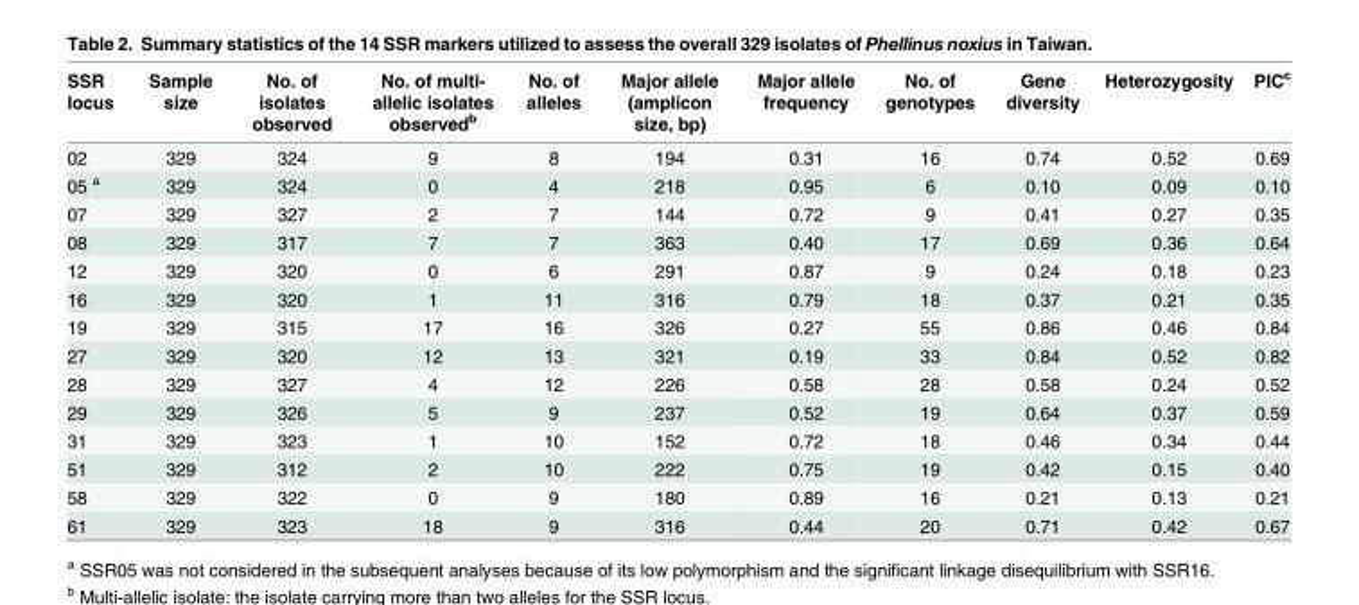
<table><thead><tr><td>SSR locus</td><td>Sample size</td><td>No. of isolates observed</td><td>No. of multi- allelic isolates observed<sup>b</sup></td><td>No. of alleles</td><td>Major allele (amplicon size, bp)</td><td>Major allele frequency</td><td>No. of genotypes</td><td>Gene diversity</td><td>Heterozygosity</td><td>PIC<sup>c</sup></td></tr></thead><tbody><tr><td>02</td><td>329</td><td>324</td><td>9</td><td>8</td><td>194</td><td>0.31</td><td>16</td><td>0.74</td><td>0.52</td><td>0.69</td></tr><tr><td>05 <sup>a</sup></td><td>329</td><td>324</td><td>0</td><td>4</td><td>218</td><td>0.95</td><td>6</td><td>0.10</td><td>0.09</td><td>0.10</td></tr><tr><td>07</td><td>329</td><td>327</td><td>2</td><td>7</td><td>144</td><td>0.72</td><td>9</td><td>0.41</td><td>0.27</td><td>0.35</td></tr><tr><td>08</td><td>329</td><td>317</td><td>7</td><td>7</td><td>363</td><td>0.40</td><td>17</td><td>0.69</td><td>0.36</td><td>0.64</td></tr><tr><td>12</td><td>329</td><td>320</td><td>0</td><td>6</td><td>291</td><td>0.87</td><td>9</td><td>0.24</td><td>0.18</td><td>0.23</td></tr><tr><td>16</td><td>329</td><td>320</td><td>1</td><td>11</td><td>316</td><td>0.79</td><td>18</td><td>0.37</td><td>0.21</td><td>0.35</td></tr><tr><td>19</td><td>329</td><td>315</td><td>17</td><td>16</td><td>326</td><td>0.27</td><td>55</td><td>0.86</td><td>0.46</td><td>0.84</td></tr><tr><td>27</td><td>329</td><td>320</td><td>12</td><td>13</td><td>321</td><td>0.19</td><td>33</td><td>0.84</td><td>0.52</td><td>0.82</td></tr><tr><td>28</td><td>329</td><td>327</td><td>4</td><td>12</td><td>226</td><td>0.58</td><td>28</td><td>0.58</td><td>0.24</td><td>0.52</td></tr><tr><td>29</td><td>329</td><td>326</td><td>5</td><td>9</td><td>237</td><td>0.52</td><td>19</td><td>0.64</td><td>0.37</td><td>0.59</td></tr><tr><td>31</td><td>329</td><td>323</td><td>1</td><td>10</td><td>152</td><td>0.72</td><td>18</td><td>0.46</td><td>0.34</td><td>0.44</td></tr><tr><td>51</td><td>329</td><td>312</td><td>2</td><td>10</td><td>222</td><td>0.75</td><td>19</td><td>0.42</td><td>0.15</td><td>0.40</td></tr><tr><td>58</td><td>329</td><td>322</td><td>0</td><td>9</td><td>180</td><td>0.89</td><td>16</td><td>0.21</td><td>0.13</td><td>0.21</td></tr><tr><td>61</td><td>329</td><td>323</td><td>18</td><td>9</td><td>316</td><td>0.44</td><td>20</td><td>0.71</td><td>0.42</td><td>0.67</td></tr></tbody></table>